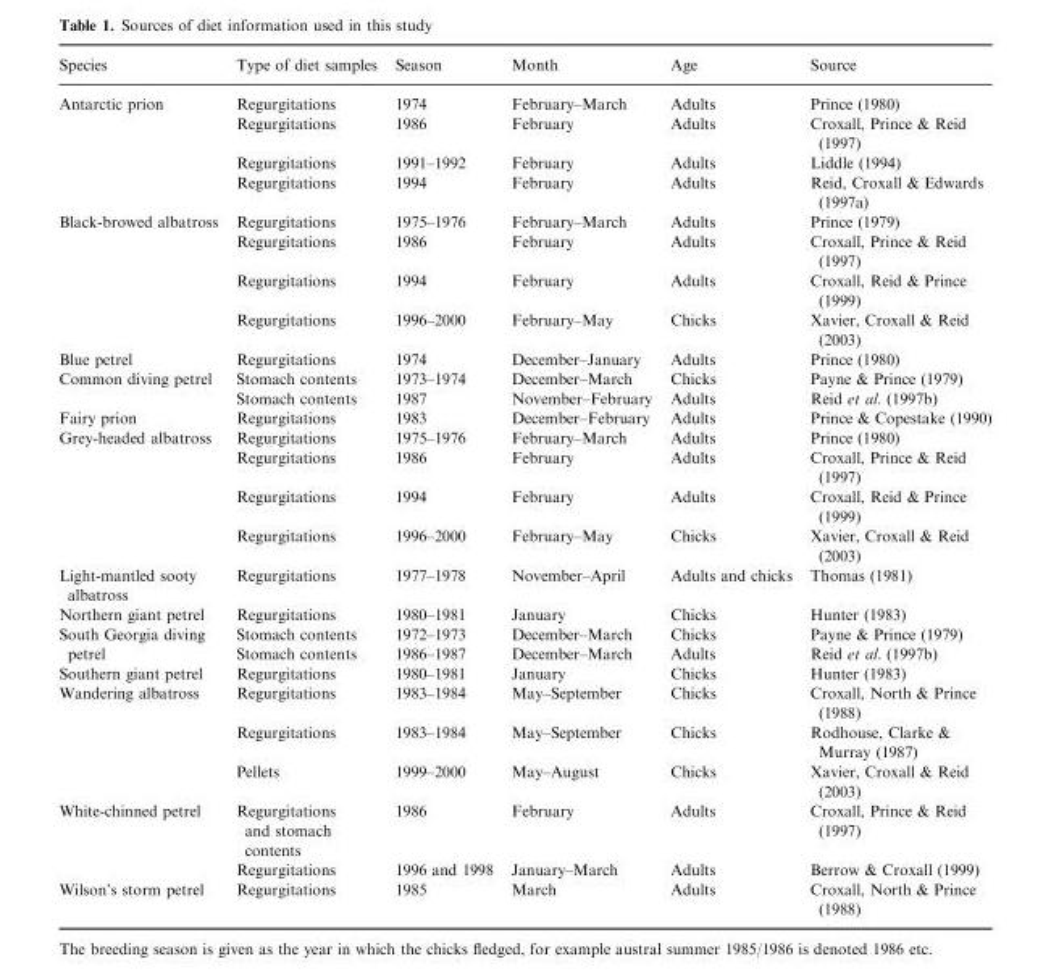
<table><thead><tr><td>Species</td><td>Type of diet samples</td><td>Season</td><td>Month</td><td>Age</td><td>Source</td></tr></thead><tbody><tr><td rowspan="4">Antarctic prion</td><td>Regurgitations</td><td>1974</td><td>February–March</td><td>Adults</td><td>Prince (1980)</td></tr><tr><td>Regurgitations</td><td>1986</td><td>February</td><td>Adults</td><td>Croxall, Prince &amp; Reid (1997)</td></tr><tr><td>Regurgitations</td><td>1991–1992</td><td>February</td><td>Adults</td><td>Liddle (1994)</td></tr><tr><td>Regurgitations</td><td>1994</td><td>February</td><td>Adults</td><td>Reid, Croxall &amp; Edwards (1997a)</td></tr><tr><td rowspan="4">Black-browed albatross</td><td>Regurgitations</td><td>1975–1976</td><td>February–March</td><td>Adults</td><td>Prince (1979)</td></tr><tr><td>Regurgitations</td><td>1986</td><td>February</td><td>Adults</td><td>Croxall, Prince &amp; Reid (1997)</td></tr><tr><td>Regurgitations</td><td>1994</td><td>February</td><td>Adults</td><td>Croxall, Reid &amp; Prince (1999)</td></tr><tr><td>Regurgitations</td><td>1996–2000</td><td>February–May</td><td>Chicks</td><td>Xavier, Croxall &amp; Reid (2003)</td></tr><tr><td>Blue petrel</td><td>Regurgitations</td><td>1974</td><td>December–January</td><td>Adults</td><td>Prince (1980)</td></tr><tr><td rowspan="2">Common diving petrel</td><td>Stomach contents</td><td>1973–1974</td><td>December–March</td><td>Chicks</td><td>Payne &amp; Prince (1979)</td></tr><tr><td>Stomach contents</td><td>1987</td><td>November–February</td><td>Adults</td><td>Reid et al. (1997b)</td></tr><tr><td>Fairy prion</td><td>Regurgitations</td><td>1983</td><td>December–February</td><td>Adults</td><td>Prince &amp; Copestake (1990)</td></tr><tr><td rowspan="4">Grey-headed albatross</td><td>Regurgitations</td><td>1975–1976</td><td>February–March</td><td>Adults</td><td>Prince (1980)</td></tr><tr><td>Regurgitations</td><td>1986</td><td>February</td><td>Adults</td><td>Croxall, Prince &amp; Reid (1997)</td></tr><tr><td>Regurgitations</td><td>1994</td><td>February</td><td>Adults</td><td>Croxall, Reid &amp; Prince (1999)</td></tr><tr><td>Regurgitations</td><td>1996–2000</td><td>February–May</td><td>Chicks</td><td>Xavier, Croxall &amp; Reid (2003)</td></tr><tr><td>Light-mantled sooty albatross</td><td>Regurgitations</td><td>1977–1978</td><td>November–April</td><td>Adults and chicks</td><td>Thomas (1981)</td></tr><tr><td>Northern giant petrel</td><td>Regurgitations</td><td>1980–1981</td><td>January</td><td>Chicks</td><td>Hunter (1983)</td></tr><tr><td rowspan="2">South Georgia diving petrel</td><td>Stomach contents</td><td>1972–1973</td><td>December–March</td><td>Chicks</td><td>Payne &amp; Prince (1979)</td></tr><tr><td>Stomach contents</td><td>1986–1987</td><td>December–March</td><td>Adults</td><td>Reid et al. (1997b)</td></tr><tr><td>Southern giant petrel</td><td>Regurgitations</td><td>1980–1981</td><td>January</td><td>Chicks</td><td>Hunter (1983)</td></tr><tr><td rowspan="3">Wandering albatross</td><td>Regurgitations</td><td>1983–1984</td><td>May–September</td><td>Chicks</td><td>Croxall, North &amp; Prince (1988)</td></tr><tr><td>Regurgitations</td><td>1983–1984</td><td>May–September</td><td>Chicks</td><td>Rodhouse, Clarke &amp; Murray (1987)</td></tr><tr><td>Pellets</td><td>1999–2000</td><td>May–August</td><td>Chicks</td><td>Xavier, Croxall &amp; Reid (2003)</td></tr><tr><td rowspan="2">White-chinned petrel</td><td>Regurgitations and stomach contents</td><td>1986</td><td>February</td><td>Adults</td><td>Croxall, Prince &amp; Reid (1997)</td></tr><tr><td>Regurgitations</td><td>1996 and 1998</td><td>January–March</td><td>Adults</td><td>Berrow &amp; Croxall (1999)</td></tr><tr><td>Wilson’s storm petrel</td><td>Regurgitations</td><td>1985</td><td>March</td><td>Adults</td><td>Croxall, North &amp; Prince (1988)</td></tr></tbody></table>